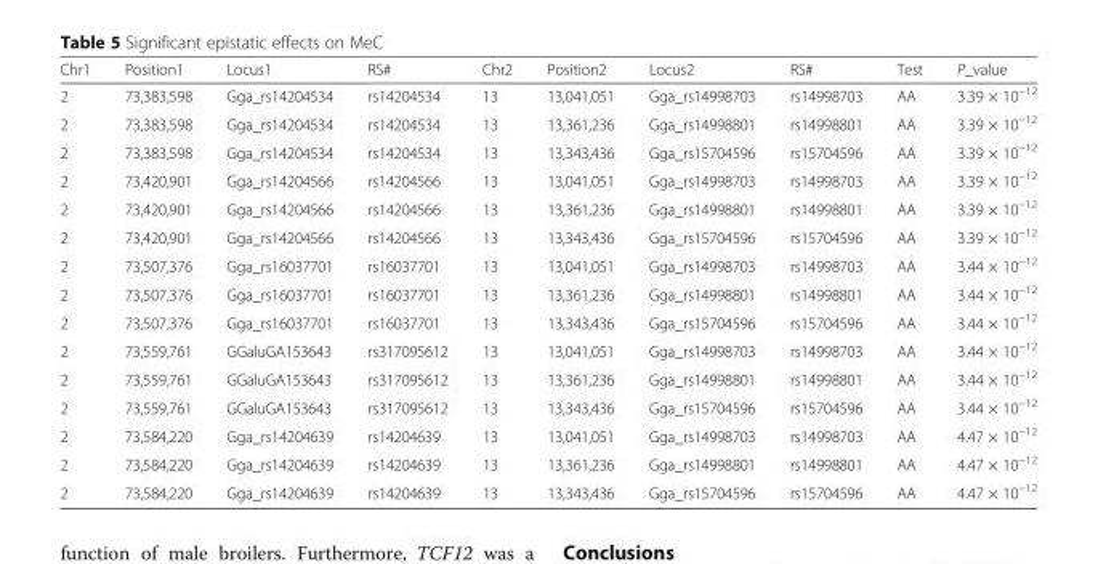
<table><thead><tr><td>Chr1</td><td>Position1</td><td>Locus1</td><td>RS#</td><td>Chr2</td><td>Position2</td><td>Locus2</td><td>RS#</td><td>Test</td><td>P_value</td></tr></thead><tbody><tr><td>2</td><td>73,383,598</td><td>Gga_rs14204534</td><td>rs14204534</td><td>13</td><td>13,041,051</td><td>Gga_rs14998703</td><td>rs14998703</td><td>AA</td><td>3.39 × 10<sup>−12</sup></td></tr><tr><td>2</td><td>73,383,598</td><td>Gga_rs14204534</td><td>rs14204534</td><td>13</td><td>13,361,236</td><td>Gga_rs14998801</td><td>rs14998801</td><td>AA</td><td>3.39 × 10<sup>−12</sup></td></tr><tr><td>2</td><td>73,383,598</td><td>Gga_rs14204534</td><td>rs14204534</td><td>13</td><td>13,343,436</td><td>Gga_rs15704596</td><td>rs15704596</td><td>AA</td><td>3.39 × 10<sup>−12</sup></td></tr><tr><td>2</td><td>73,420,901</td><td>Gga_rs14204566</td><td>rs14204566</td><td>13</td><td>13,041,051</td><td>Gga_rs14998703</td><td>rs14998703</td><td>AA</td><td>3.39 × 10<sup>−12</sup></td></tr><tr><td>2</td><td>73,420,901</td><td>Gga_rs14204566</td><td>rs14204566</td><td>13</td><td>13,361,236</td><td>Gga_rs14998801</td><td>rs14998801</td><td>AA</td><td>3.39 × 10<sup>−12</sup></td></tr><tr><td>2</td><td>73,420,901</td><td>Gga_rs14204566</td><td>rs14204566</td><td>13</td><td>13,343,436</td><td>Gga_rs15704596</td><td>rs15704596</td><td>AA</td><td>3.39 × 10<sup>−12</sup></td></tr><tr><td>2</td><td>73,507,376</td><td>Gga_rs16037701</td><td>rs16037701</td><td>13</td><td>13,041,051</td><td>Gga_rs14998703</td><td>rs14998703</td><td>AA</td><td>3.44 × 10<sup>−12</sup></td></tr><tr><td>2</td><td>73,507,376</td><td>Gga_rs16037701</td><td>rs16037701</td><td>13</td><td>13,361,236</td><td>Gga_rs14998801</td><td>rs14998801</td><td>AA</td><td>3.44 × 10<sup>−12</sup></td></tr><tr><td>2</td><td>73,507,376</td><td>Gga_rs16037701</td><td>rs16037701</td><td>13</td><td>13,343,436</td><td>Gga_rs15704596</td><td>rs15704596</td><td>AA</td><td>3.44 × 10<sup>−12</sup></td></tr><tr><td>2</td><td>73,559,761</td><td>GGaluGA153643</td><td>rs317095612</td><td>13</td><td>13,041,051</td><td>Gga_rs14998703</td><td>rs14998703</td><td>AA</td><td>3.44 × 10<sup>−12</sup></td></tr><tr><td>2</td><td>73,559,761</td><td>GGaluGA153643</td><td>rs317095612</td><td>13</td><td>13,361,236</td><td>Gga_rs14998801</td><td>rs14998801</td><td>AA</td><td>3.44 × 10<sup>−12</sup></td></tr><tr><td>2</td><td>73,559,761</td><td>GGaluGA153643</td><td>rs317095612</td><td>13</td><td>13,343,436</td><td>Gga_rs15704596</td><td>rs15704596</td><td>AA</td><td>3.44 × 10<sup>−12</sup></td></tr><tr><td>2</td><td>73,584,220</td><td>Gga_rs14204639</td><td>rs14204639</td><td>13</td><td>13,041,051</td><td>Gga_rs14998703</td><td>rs14998703</td><td>AA</td><td>4.47 × 10<sup>−12</sup></td></tr><tr><td>2</td><td>73,584,220</td><td>Gga_rs14204639</td><td>rs14204639</td><td>13</td><td>13,361,236</td><td>Gga_rs14998801</td><td>rs14998801</td><td>AA</td><td>4.47 × 10<sup>−12</sup></td></tr><tr><td>2</td><td>73,584,220</td><td>Gga_rs14204639</td><td>rs14204639</td><td>13</td><td>13,343,436</td><td>Gga_rs15704596</td><td>rs15704596</td><td>AA</td><td>4.47 × 10<sup>−12</sup></td></tr></tbody></table>